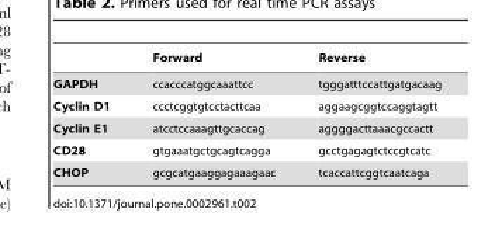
<table><thead><tr><td></td><td>Forward</td><td>Reverse</td></tr></thead><tbody><tr><td>GAPDH</td><td>ccacccatggcaaattcc</td><td>tgggatttccattgatgacaag</td></tr><tr><td>Cyclin D1</td><td>ccctcggtgtcctacttcaa</td><td>aggaagcggtccaggtagtt</td></tr><tr><td>Cyclin E1</td><td>atcctccaaagttgcaccag</td><td>aggggacttaaacgccactt</td></tr><tr><td>CD28</td><td>gtgaaatgctgcagtcagga</td><td>gcctgagagtctccgtcatc</td></tr><tr><td>CHOP</td><td>gcgcatgaaggagaaagaac</td><td>tcaccattcggtcaatcaga</td></tr></tbody></table>